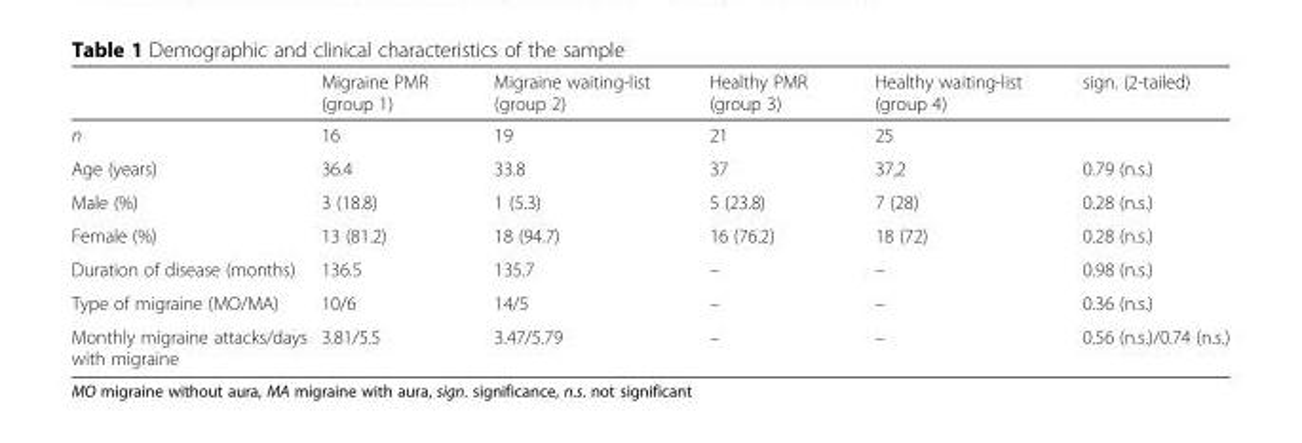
<table><thead><tr><td></td><td>Migraine PMR (group 1)</td><td>Migraine waiting-list (group 2)</td><td>Healthy PMR (group 3)</td><td>Healthy waiting-list (group 4)</td><td>sign. (2-tailed)</td></tr></thead><tbody><tr><td>n</td><td>16</td><td>19</td><td>21</td><td>25</td><td></td></tr><tr><td>Age (years)</td><td>36.4</td><td>33.8</td><td>37</td><td>37,2</td><td>0.79 (n.s.)</td></tr><tr><td>Male (%)</td><td>3 (18.8)</td><td>1 (5.3)</td><td>5 (23.8)</td><td>7 (28)</td><td>0.28 (n.s.)</td></tr><tr><td>Female (%)</td><td>13 (81.2)</td><td>18 (94.7)</td><td>16 (76.2)</td><td>18 (72)</td><td>0.28 (n.s.)</td></tr><tr><td>Duration of disease (months)</td><td>136.5</td><td>135.7</td><td>–</td><td>–</td><td>0.98 (n.s.)</td></tr><tr><td>Type of migraine (MO/MA)</td><td>10/6</td><td>14/5</td><td>–</td><td>–</td><td>0.36 (n.s.)</td></tr><tr><td>Monthly migraine attacks/days with migraine</td><td>3.81/5.5</td><td>3.47/5.79</td><td>–</td><td>–</td><td>0.56 (n.s.)/0.74 (n.s.)</td></tr></tbody></table>